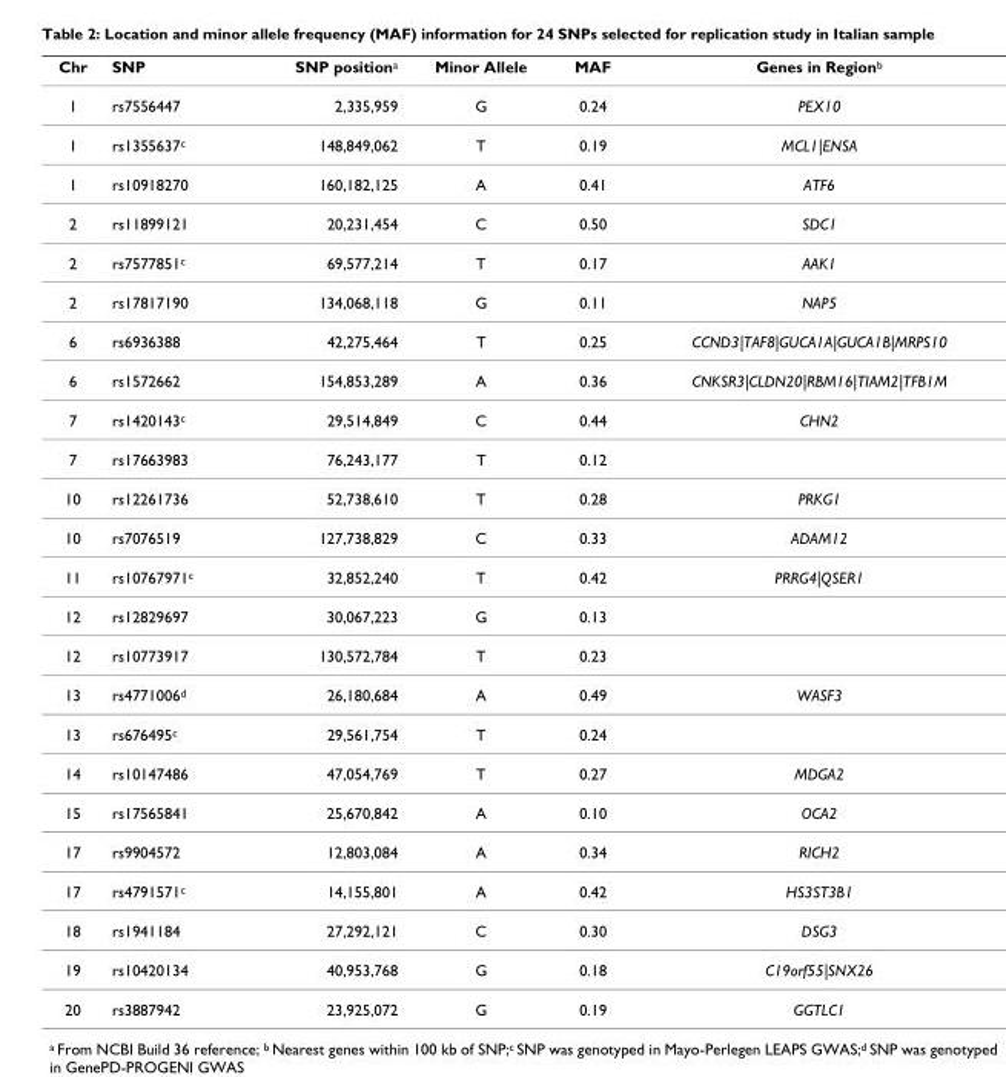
<table><thead><tr><td>Chr</td><td>SNP</td><td>SNP position<sup>a</sup></td><td>Minor Allele</td><td>MAF</td><td>Genes in Region<sup>b</sup></td></tr></thead><tbody><tr><td>1</td><td>rs7556447</td><td>2,335,959</td><td>G</td><td>0.24</td><td>PEX10</td></tr><tr><td>1</td><td>rs1355637<sup>c</sup></td><td>148,849,062</td><td>T</td><td>0.19</td><td>MCL1|ENSA</td></tr><tr><td>1</td><td>rs10918270</td><td>160,182,125</td><td>A</td><td>0.41</td><td>ATF6</td></tr><tr><td>2</td><td>rs11899121</td><td>20,231,454</td><td>C</td><td>0.50</td><td>SDC1</td></tr><tr><td>2</td><td>rs7577851<sup>c</sup></td><td>69,577,214</td><td>T</td><td>0.17</td><td>AAK1</td></tr><tr><td>2</td><td>rs17817190</td><td>134,068,118</td><td>G</td><td>0.11</td><td>NAP5</td></tr><tr><td>6</td><td>rs6936388</td><td>42,275,464</td><td>T</td><td>0.25</td><td>CCND3|TAF8|GUCA1A|GUCA1B|MRPS10</td></tr><tr><td>6</td><td>rs1572662</td><td>154,853,289</td><td>A</td><td>0.36</td><td>CNKSR3|CLDN20|RBM16|TIAM2|TFB1M</td></tr><tr><td>7</td><td>rs1420143<sup>c</sup></td><td>29,514,849</td><td>C</td><td>0.44</td><td>CHN2</td></tr><tr><td>7</td><td>rs17663983</td><td>76,243,177</td><td>T</td><td>0.12</td><td></td></tr><tr><td>10</td><td>rs12261736</td><td>52,738,610</td><td>T</td><td>0.28</td><td>PRKG1</td></tr><tr><td>10</td><td>rs7076519</td><td>127,738,829</td><td>C</td><td>0.33</td><td>ADAM12</td></tr><tr><td>11</td><td>rs10767971<sup>c</sup></td><td>32,852,240</td><td>T</td><td>0.42</td><td>PRRG4|QSER1</td></tr><tr><td>12</td><td>rs12829697</td><td>30,067,223</td><td>G</td><td>0.13</td><td></td></tr><tr><td>12</td><td>rs10773917</td><td>130,572,784</td><td>T</td><td>0.23</td><td></td></tr><tr><td>13</td><td>rs4771006<sup>d</sup></td><td>26,180,684</td><td>A</td><td>0.49</td><td>WASF3</td></tr><tr><td>13</td><td>rs676495<sup>c</sup></td><td>29,561,754</td><td>T</td><td>0.24</td><td></td></tr><tr><td>14</td><td>rs10147486</td><td>47,054,769</td><td>T</td><td>0.27</td><td>MDGA2</td></tr><tr><td>15</td><td>rs17565841</td><td>25,670,842</td><td>A</td><td>0.10</td><td>OCA2</td></tr><tr><td>17</td><td>rs9904572</td><td>12,803,084</td><td>A</td><td>0.34</td><td>RICH2</td></tr><tr><td>17</td><td>rs4791571<sup>c</sup></td><td>14,155,801</td><td>A</td><td>0.42</td><td>HS3ST3B1</td></tr><tr><td>18</td><td>rs1941184</td><td>27,292,121</td><td>C</td><td>0.30</td><td>DSG3</td></tr><tr><td>19</td><td>rs10420134</td><td>40,953,768</td><td>G</td><td>0.18</td><td>C19orf55|SNX26</td></tr><tr><td>20</td><td>rs3887942</td><td>23,925,072</td><td>G</td><td>0.19</td><td>GGTLC1</td></tr></tbody></table>